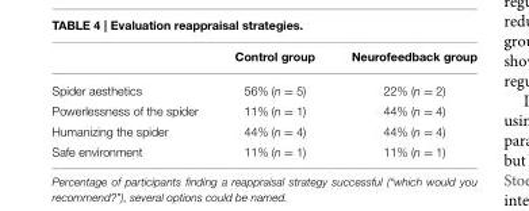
<table><thead><tr><td></td><td>Control group</td><td>Neurofeedback group</td></tr></thead><tbody><tr><td>Spider aesthetics</td><td>56% (n = 5)</td><td>22% (n = 2)</td></tr><tr><td>Powerlessness of the spider</td><td>11% (n = 1)</td><td>44% (n = 4)</td></tr><tr><td>Humanizing the spider</td><td>44% (n = 4)</td><td>44% (n = 4)</td></tr><tr><td>Safe environment</td><td>11% (n = 1)</td><td>11% (n = 1)</td></tr></tbody></table>